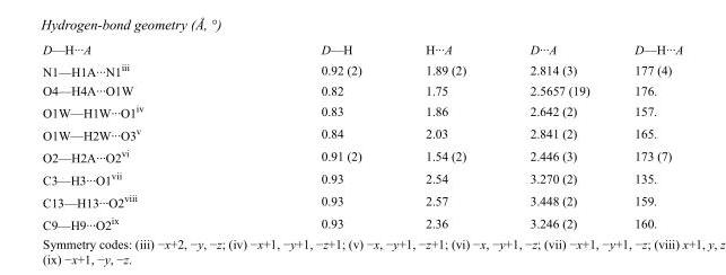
<table><tbody><tr><td>D—H···A</td><td>D—H</td><td>H···A</td><td>D···A</td><td>D—H···A</td></tr><tr><td>N1—H1A···N1<sup>iii</sup></td><td>0.92 (2)</td><td>1.89 (2)</td><td>2.814 (3)</td><td>177 (4)</td></tr><tr><td>O4—H4A···O1W</td><td>0.82</td><td>1.75</td><td>2.5657 (19)</td><td>176.</td></tr><tr><td>O1W—H1W···O1<sup>iv</sup></td><td>0.83</td><td>1.86</td><td>2.642 (2)</td><td>157.</td></tr><tr><td>O1W—H2W···O3<sup>v</sup></td><td>0.84</td><td>2.03</td><td>2.841 (2)</td><td>165.</td></tr><tr><td>O2—H2A···O2<sup>vi</sup></td><td>0.91 (2)</td><td>1.54 (2)</td><td>2.446 (3)</td><td>173 (7)</td></tr><tr><td>C3—H3···O1<sup>vii</sup></td><td>0.93</td><td>2.54</td><td>3.270 (2)</td><td>135.</td></tr><tr><td>C13—H13···O2<sup>viii</sup></td><td>0.93</td><td>2.57</td><td>3.448 (2)</td><td>159.</td></tr><tr><td>C9—H9···O2<sup>ix</sup></td><td>0.93</td><td>2.36</td><td>3.246 (2)</td><td>160.</td></tr></tbody></table>